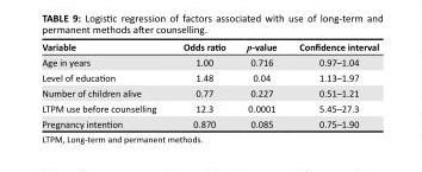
<table><thead><tr><td>Variable</td><td>Odds ratio</td><td>p-value</td><td>Confidence interval</td></tr></thead><tbody><tr><td>Age in years</td><td>1.00</td><td>0.716</td><td>0.97–1.04</td></tr><tr><td>Level of education</td><td>1.48</td><td>0.04</td><td>1.13–1.97</td></tr><tr><td>Number of children alive</td><td>0.77</td><td>0.227</td><td>0.51–1.21</td></tr><tr><td>LTPM use before counselling</td><td>12.3</td><td>0.0001</td><td>5.45–27.3</td></tr><tr><td>Pregnancy intention</td><td>0.870</td><td>0.085</td><td>0.75–1.90</td></tr></tbody></table>